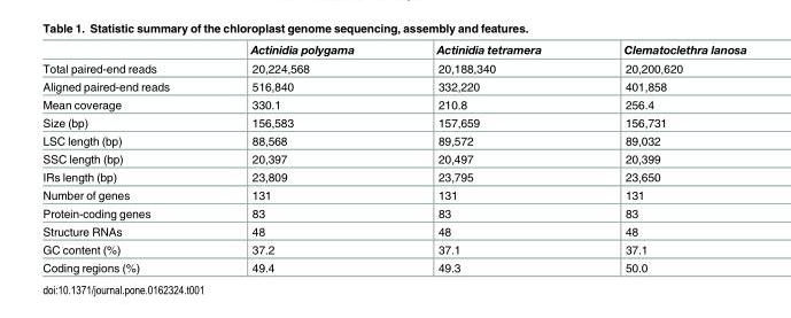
<table><thead><tr><td></td><td>Actinidia polygama</td><td>Actinidia tetramera</td><td>Clematoclethra lanosa</td></tr></thead><tbody><tr><td>Total paired-end reads</td><td>20,224,568</td><td>20,188,340</td><td>20,200,620</td></tr><tr><td>Aligned paired-end reads</td><td>516,840</td><td>332,220</td><td>401,858</td></tr><tr><td>Mean coverage</td><td>330.1</td><td>210.8</td><td>256.4</td></tr><tr><td>Size (bp)</td><td>156,583</td><td>157,659</td><td>156,731</td></tr><tr><td>LSC length (bp)</td><td>88,568</td><td>89,572</td><td>89,032</td></tr><tr><td>SSC length (bp)</td><td>20,397</td><td>20,497</td><td>20,399</td></tr><tr><td>IRs length (bp)</td><td>23,809</td><td>23,795</td><td>23,650</td></tr><tr><td>Number of genes</td><td>131</td><td>131</td><td>131</td></tr><tr><td>Protein-coding genes</td><td>83</td><td>83</td><td>83</td></tr><tr><td>Structure RNAs</td><td>48</td><td>48</td><td>48</td></tr><tr><td>GC content (%)</td><td>37.2</td><td>37.1</td><td>37.1</td></tr><tr><td>Coding regions (%)</td><td>49.4</td><td>49.3</td><td>50.0</td></tr></tbody></table>